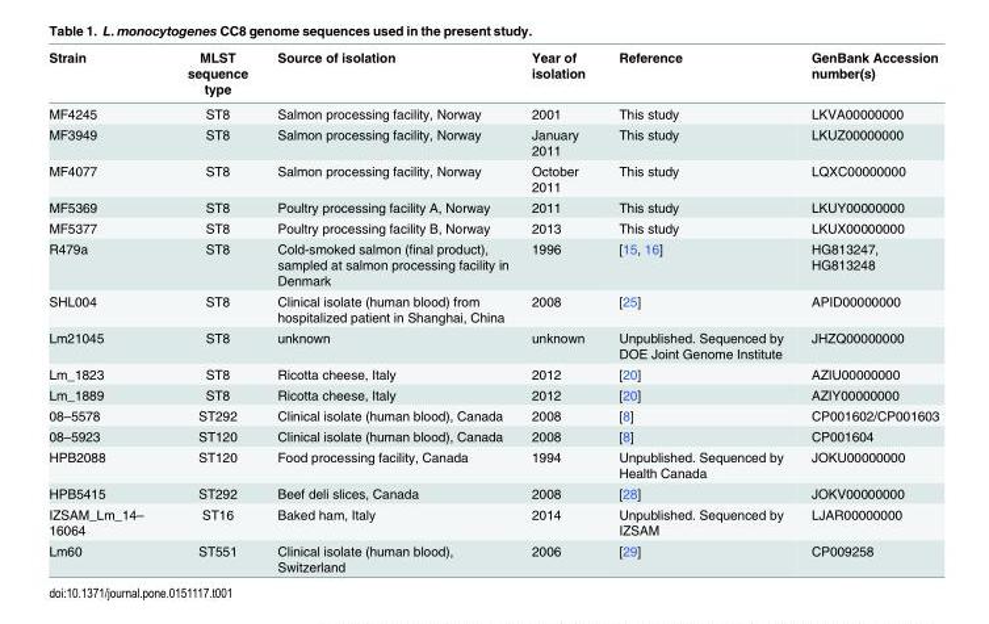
<table><thead><tr><td>Strain</td><td>MLST sequence type</td><td>Source of isolation</td><td>Year of isolation</td><td>Reference</td><td>GenBank Accession number(s)</td></tr></thead><tbody><tr><td>MF4245</td><td>ST8</td><td>Salmon processing facility, Norway</td><td>2001</td><td>This study</td><td>LKVA00000000</td></tr><tr><td>MF3949</td><td>ST8</td><td>Salmon processing facility, Norway</td><td>January 2011</td><td>This study</td><td>LKUZ00000000</td></tr><tr><td>MF4077</td><td>ST8</td><td>Salmon processing facility, Norway</td><td>October 2011</td><td>This study</td><td>LQXC00000000</td></tr><tr><td>MF5369</td><td>ST8</td><td>Poultry processing facility A, Norway</td><td>2011</td><td>This study</td><td>LKUY00000000</td></tr><tr><td>MF5377</td><td>ST8</td><td>Poultry processing facility B, Norway</td><td>2013</td><td>This study</td><td>LKUX00000000</td></tr><tr><td>R479a</td><td>ST8</td><td>Cold-smoked salmon (final product), sampled at salmon processing facility in Denmark</td><td>1996</td><td>[15, 16]</td><td>HG813247, HG813248</td></tr><tr><td>SHL004</td><td>ST8</td><td>Clinical isolate (human blood) from hospitalized patient in Shanghai, China</td><td>2008</td><td>[25]</td><td>APID00000000</td></tr><tr><td>Lm21045</td><td>ST8</td><td>unknown</td><td>unknown</td><td>Unpublished. Sequenced by DOE Joint Genome Institute</td><td>JHZQ00000000</td></tr><tr><td>Lm_1823</td><td>ST8</td><td>Ricotta cheese, Italy</td><td>2012</td><td>[20]</td><td>AZIU00000000</td></tr><tr><td>Lm_1889</td><td>ST8</td><td>Ricotta cheese, Italy</td><td>2012</td><td>[20]</td><td>AZIY00000000</td></tr><tr><td>08–5578</td><td>ST292</td><td>Clinical isolate (human blood), Canada</td><td>2008</td><td>[8]</td><td>CP001602/CP001603</td></tr><tr><td>08–5923</td><td>ST120</td><td>Clinical isolate (human blood), Canada</td><td>2008</td><td>[8]</td><td>CP001604</td></tr><tr><td>HPB2088</td><td>ST120</td><td>Food processing facility, Canada</td><td>1994</td><td>Unpublished. Sequenced by Health Canada</td><td>JOKU00000000</td></tr><tr><td>HPB5415</td><td>ST292</td><td>Beef deli slices, Canada</td><td>2008</td><td>[28]</td><td>JOKV00000000</td></tr><tr><td>IZSAM_Lm_14– 16064</td><td>ST16</td><td>Baked ham, Italy</td><td>2014</td><td>Unpublished. Sequenced by IZSAM</td><td>LJAR00000000</td></tr><tr><td>Lm60</td><td>ST551</td><td>Clinical isolate (human blood), Switzerland</td><td>2006</td><td>[29]</td><td>CP009258</td></tr></tbody></table>